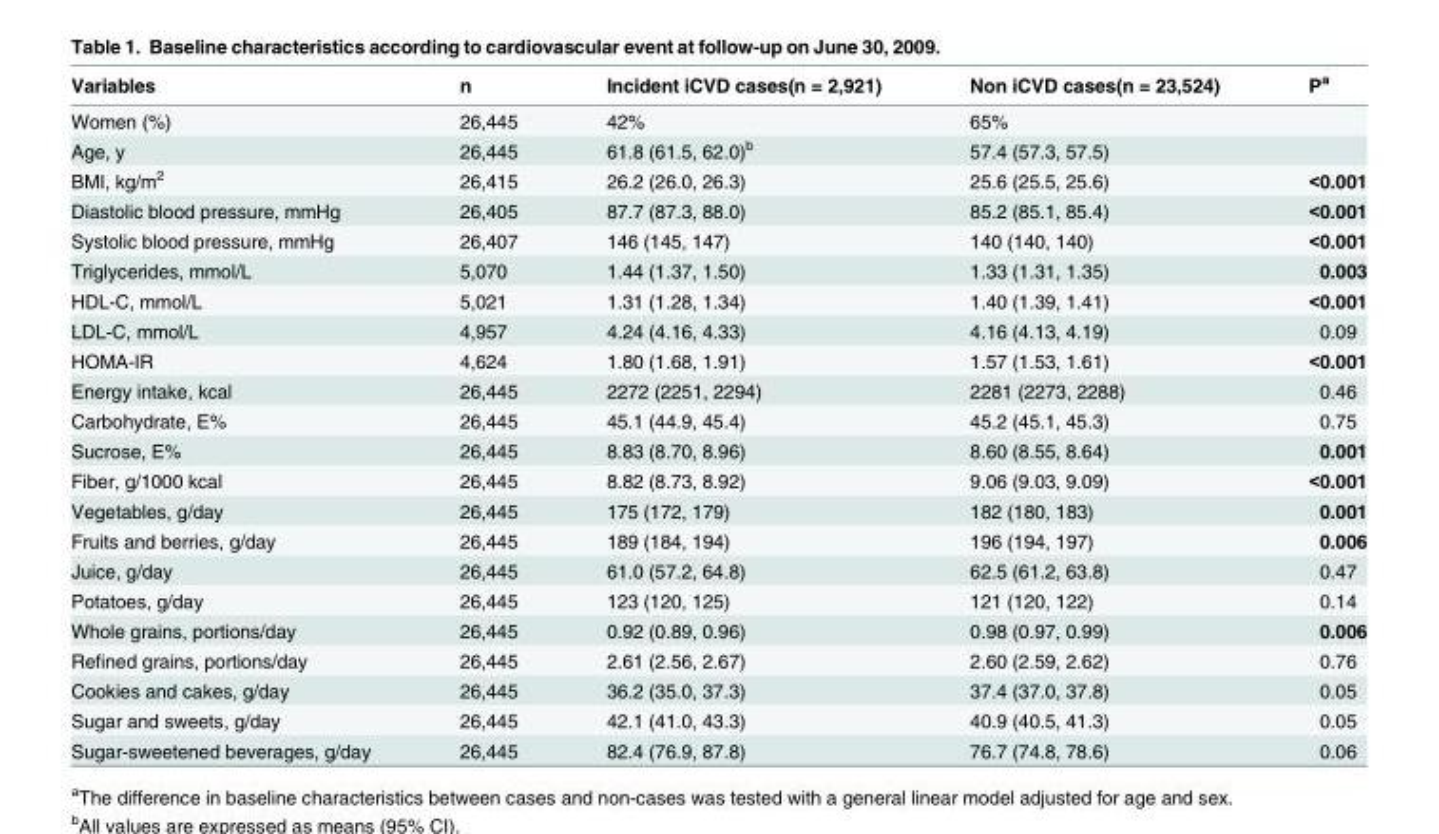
<table><thead><tr><td>Variables</td><td>n</td><td>Incident iCVD cases(n = 2,921)</td><td>Non iCVD cases(n = 23,524)</td><td>P<sup>a</sup></td></tr></thead><tbody><tr><td>Women (%)</td><td>26,445</td><td>42%</td><td>65%</td><td></td></tr><tr><td>Age, y</td><td>26,445</td><td>61.8 (61.5, 62.0)<sup>b</sup></td><td>57.4 (57.3, 57.5)</td><td></td></tr><tr><td>BMI, kg/m<sup>2</sup></td><td>26,415</td><td>26.2 (26.0, 26.3)</td><td>25.6 (25.5, 25.6)</td><td>&lt;0.001</td></tr><tr><td>Diastolic blood pressure, mmHg</td><td>26,405</td><td>87.7 (87.3, 88.0)</td><td>85.2 (85.1, 85.4)</td><td>&lt;0.001</td></tr><tr><td>Systolic blood pressure, mmHg</td><td>26,407</td><td>146 (145, 147)</td><td>140 (140, 140)</td><td>&lt;0.001</td></tr><tr><td>Triglycerides, mmol/L</td><td>5,070</td><td>1.44 (1.37, 1.50)</td><td>1.33 (1.31, 1.35)</td><td>0.003</td></tr><tr><td>HDL-C, mmol/L</td><td>5,021</td><td>1.31 (1.28, 1.34)</td><td>1.40 (1.39, 1.41)</td><td>&lt;0.001</td></tr><tr><td>LDL-C, mmol/L</td><td>4,957</td><td>4.24 (4.16, 4.33)</td><td>4.16 (4.13, 4.19)</td><td>0.09</td></tr><tr><td>HOMA-IR</td><td>4,624</td><td>1.80 (1.68, 1.91)</td><td>1.57 (1.53, 1.61)</td><td>&lt;0.001</td></tr><tr><td>Energy intake, kcal</td><td>26,445</td><td>2272 (2251, 2294)</td><td>2281 (2273, 2288)</td><td>0.46</td></tr><tr><td>Carbohydrate, E%</td><td>26,445</td><td>45.1 (44.9, 45.4)</td><td>45.2 (45.1, 45.3)</td><td>0.75</td></tr><tr><td>Sucrose, E%</td><td>26,445</td><td>8.83 (8.70, 8.96)</td><td>8.60 (8.55, 8.64)</td><td>0.001</td></tr><tr><td>Fiber, g/1000 kcal</td><td>26,445</td><td>8.82 (8.73, 8.92)</td><td>9.06 (9.03, 9.09)</td><td>&lt;0.001</td></tr><tr><td>Vegetables, g/day</td><td>26,445</td><td>175 (172, 179)</td><td>182 (180, 183)</td><td>0.001</td></tr><tr><td>Fruits and berries, g/day</td><td>26,445</td><td>189 (184, 194)</td><td>196 (194, 197)</td><td>0.006</td></tr><tr><td>Juice, g/day</td><td>26,445</td><td>61.0 (57.2, 64.8)</td><td>62.5 (61.2, 63.8)</td><td>0.47</td></tr><tr><td>Potatoes, g/day</td><td>26,445</td><td>123 (120, 125)</td><td>121 (120, 122)</td><td>0.14</td></tr><tr><td>Whole grains, portions/day</td><td>26,445</td><td>0.92 (0.89, 0.96)</td><td>0.98 (0.97, 0.99)</td><td>0.006</td></tr><tr><td>Refined grains, portions/day</td><td>26,445</td><td>2.61 (2.56, 2.67)</td><td>2.60 (2.59, 2.62)</td><td>0.76</td></tr><tr><td>Cookies and cakes, g/day</td><td>26,445</td><td>36.2 (35.0, 37.3)</td><td>37.4 (37.0, 37.8)</td><td>0.05</td></tr><tr><td>Sugar and sweets, g/day</td><td>26,445</td><td>42.1 (41.0, 43.3)</td><td>40.9 (40.5, 41.3)</td><td>0.05</td></tr><tr><td>Sugar-sweetened beverages, g/day</td><td>26,445</td><td>82.4 (76.9, 87.8)</td><td>76.7 (74.8, 78.6)</td><td>0.06</td></tr></tbody></table>